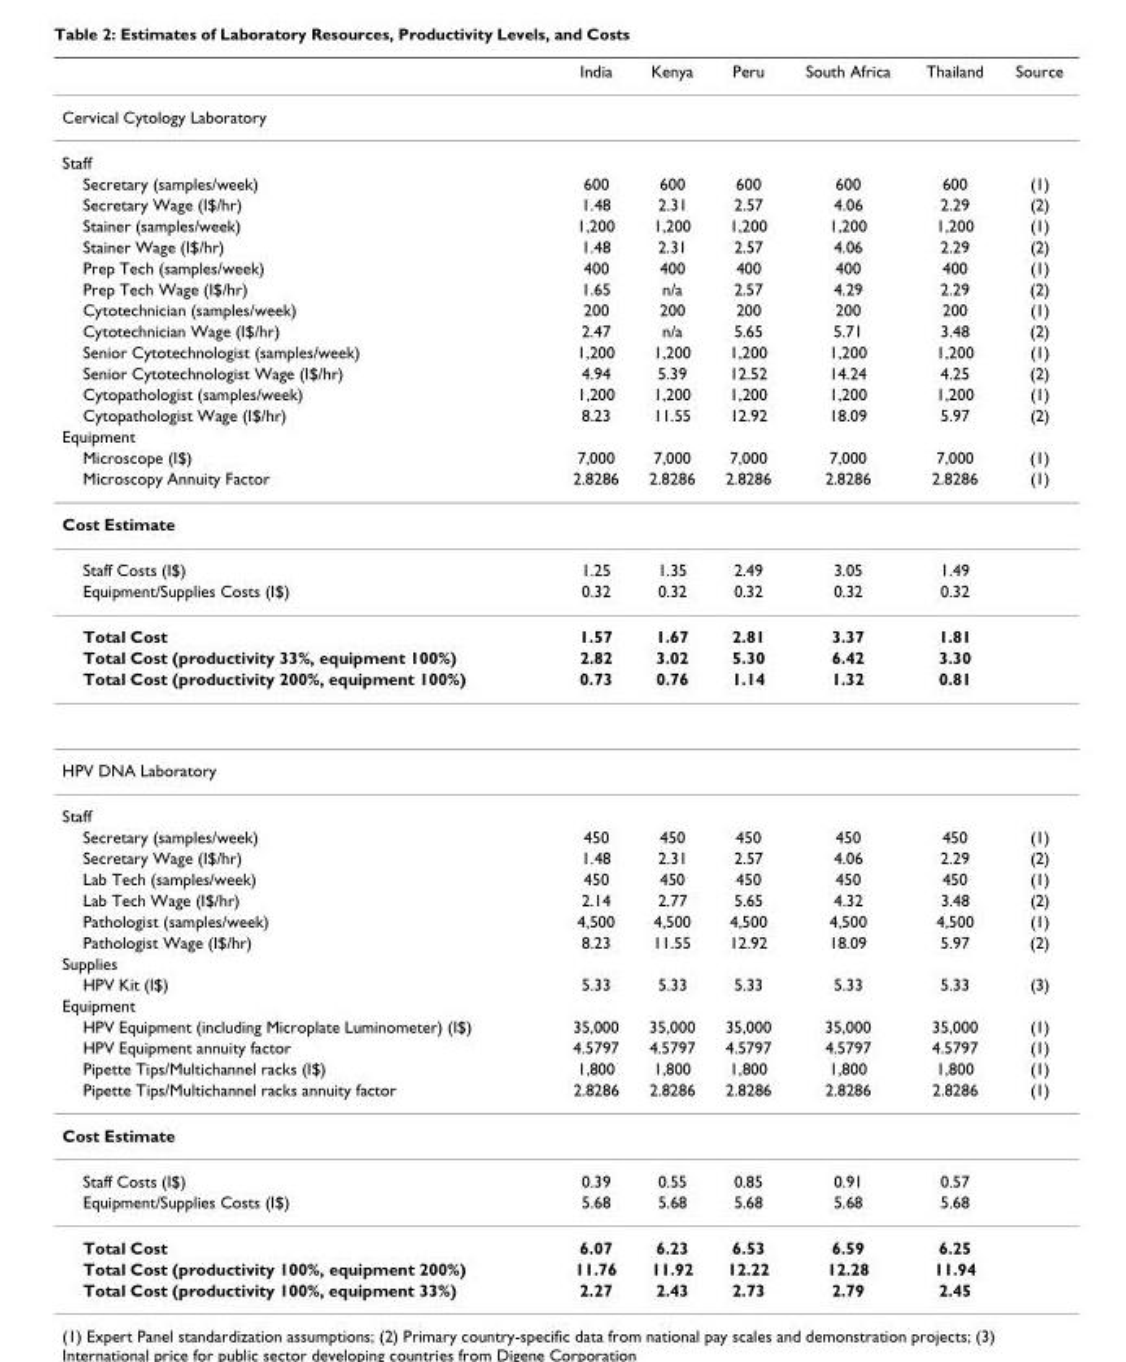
<table><thead><tr><td></td><td>India</td><td>Kenya</td><td>Peru</td><td>South Africa</td><td>Thailand</td><td>Source</td></tr></thead><tbody><tr><td colspan="7">Cervical Cytology Laboratory</td></tr><tr><td colspan="7">Staff</td></tr><tr><td>Secretary (samples/week)</td><td>600</td><td>600</td><td>600</td><td>600</td><td>600</td><td>(1)</td></tr><tr><td>Secretary Wage (I$/hr)</td><td>1.48</td><td>2.31</td><td>2.57</td><td>4.06</td><td>2.29</td><td>(2)</td></tr><tr><td>Stainer (samples/week)</td><td>1,200</td><td>1,200</td><td>1,200</td><td>1,200</td><td>1,200</td><td>(1)</td></tr><tr><td>Stainer Wage (I$/hr)</td><td>1.48</td><td>2.31</td><td>2.57</td><td>4.06</td><td>2.29</td><td>(2)</td></tr><tr><td>Prep Tech (samples/week)</td><td>400</td><td>400</td><td>400</td><td>400</td><td>400</td><td>(1)</td></tr><tr><td>Prep Tech Wage (I$/hr)</td><td>1.65</td><td>n/a</td><td>2.57</td><td>4.29</td><td>2.29</td><td>(2)</td></tr><tr><td>Cytotechnician (samples/week)</td><td>200</td><td>200</td><td>200</td><td>200</td><td>200</td><td>(1)</td></tr><tr><td>Cytotechnician Wage (I$/hr)</td><td>2.47</td><td>n/a</td><td>5.65</td><td>5.71</td><td>3.48</td><td>(2)</td></tr><tr><td>Senior Cytotechnologist (samples/week)</td><td>1,200</td><td>1,200</td><td>1,200</td><td>1,200</td><td>1,200</td><td>(1)</td></tr><tr><td>Senior Cytotechnologist Wage (I$/hr)</td><td>4.94</td><td>5.39</td><td>12.52</td><td>14.24</td><td>4.25</td><td>(2)</td></tr><tr><td>Cytopathologist (samples/week)</td><td>1,200</td><td>1,200</td><td>1,200</td><td>1,200</td><td>1,200</td><td>(1)</td></tr><tr><td>Cytopathologist Wage (I$/hr)</td><td>8.23</td><td>11.55</td><td>12.92</td><td>18.09</td><td>5.97</td><td>(2)</td></tr><tr><td colspan="7">Equipment</td></tr><tr><td>Microscope (I$)</td><td>7,000</td><td>7,000</td><td>7,000</td><td>7,000</td><td>7,000</td><td>(1)</td></tr><tr><td>Microscopy Annuity Factor</td><td>2.8286</td><td>2.8286</td><td>2.8286</td><td>2.8286</td><td>2.8286</td><td>(1)</td></tr><tr><td colspan="7">Cost Estimate</td></tr><tr><td>Staff Costs (I$)</td><td>1.25</td><td>1.35</td><td>2.49</td><td>3.05</td><td>1.49</td><td></td></tr><tr><td>Equipment/Supplies Costs (I$)</td><td>0.32</td><td>0.32</td><td>0.32</td><td>0.32</td><td>0.32</td><td></td></tr><tr><td>Total Cost</td><td>1.57</td><td>1.67</td><td>2.81</td><td>3.37</td><td>1.81</td><td></td></tr><tr><td>Total Cost (productivity 33%, equipment 100%)</td><td>2.82</td><td>3.02</td><td>5.30</td><td>6.42</td><td>3.30</td><td></td></tr><tr><td>Total Cost (productivity 200%, equipment 100%)</td><td>0.73</td><td>0.76</td><td>1.14</td><td>1.32</td><td>0.81</td><td></td></tr><tr><td colspan="7">HPV DNA Laboratory</td></tr><tr><td colspan="7">Staff</td></tr><tr><td>Secretary (samples/week)</td><td>450</td><td>450</td><td>450</td><td>450</td><td>450</td><td>(1)</td></tr><tr><td>Secretary Wage (I$/hr)</td><td>1.48</td><td>2.31</td><td>2.57</td><td>4.06</td><td>2.29</td><td>(2)</td></tr><tr><td>Lab Tech (samples/week)</td><td>450</td><td>450</td><td>450</td><td>450</td><td>450</td><td>(1)</td></tr><tr><td>Lab Tech Wage (I$/hr)</td><td>2.14</td><td>2.77</td><td>5.65</td><td>4.32</td><td>3.48</td><td>(2)</td></tr><tr><td>Pathologist (samples/week)</td><td>4,500</td><td>4,500</td><td>4,500</td><td>4,500</td><td>4,500</td><td>(1)</td></tr><tr><td>Pathologist Wage (I$/hr)</td><td>8.23</td><td>11.55</td><td>12.92</td><td>18.09</td><td>5.97</td><td>(2)</td></tr><tr><td colspan="7">Supplies</td></tr><tr><td>HPV Kit (I$)</td><td>5.33</td><td>5.33</td><td>5.33</td><td>5.33</td><td>5.33</td><td>(3)</td></tr><tr><td colspan="7">Equipment</td></tr><tr><td>HPV Equipment (including Microplate Luminometer) (I$)</td><td>35,000</td><td>35,000</td><td>35,000</td><td>35,000</td><td>35,000</td><td>(1)</td></tr><tr><td>HPV Equipment annuity factor</td><td>4.5797</td><td>4.5797</td><td>4.5797</td><td>4.5797</td><td>4.5797</td><td>(1)</td></tr><tr><td>Pipette Tips/Multichannel racks (I$)</td><td>1,800</td><td>1,800</td><td>1,800</td><td>1,800</td><td>1,800</td><td>(1)</td></tr><tr><td>Pipette Tips/Multichannel racks annuity factor</td><td>2.8286</td><td>2.8286</td><td>2.8286</td><td>2.8286</td><td>2.8286</td><td>(1)</td></tr><tr><td colspan="7">Cost Estimate</td></tr><tr><td>Staff Costs (I$)</td><td>0.39</td><td>0.55</td><td>0.85</td><td>0.91</td><td>0.57</td><td></td></tr><tr><td>Equipment/Supplies Costs (I$)</td><td>5.68</td><td>5.68</td><td>5.68</td><td>5.68</td><td>5.68</td><td></td></tr><tr><td>Total Cost</td><td>6.07</td><td>6.23</td><td>6.53</td><td>6.59</td><td>6.25</td><td></td></tr><tr><td>Total Cost (productivity 100%, equipment 200%)</td><td>11.76</td><td>11.92</td><td>12.22</td><td>12.28</td><td>11.94</td><td></td></tr><tr><td>Total Cost (productivity 100%, equipment 33%)</td><td>2.27</td><td>2.43</td><td>2.73</td><td>2.79</td><td>2.45</td><td></td></tr></tbody></table>